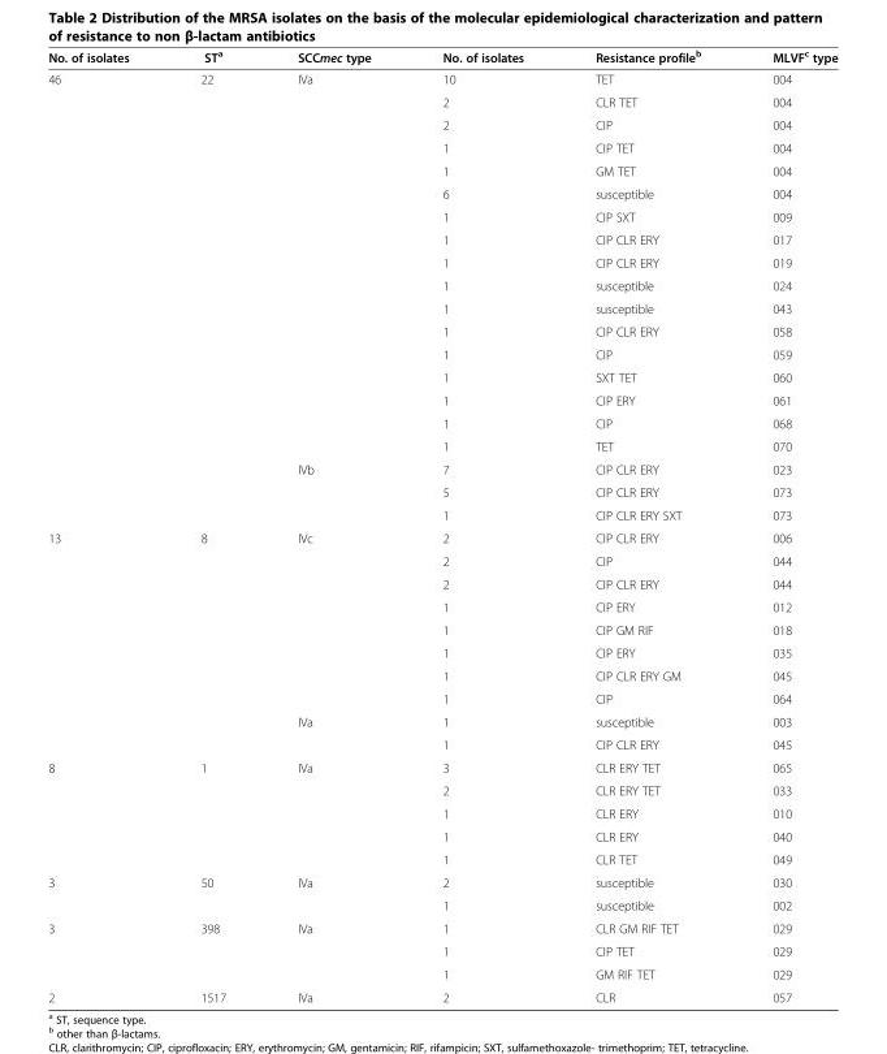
<table><thead><tr><td>No. of isolates</td><td>ST<sup>a</sup></td><td>SCCmec type</td><td>No. of isolates</td><td>Resistance profile<sup>b</sup></td><td>MLVF<sup>c</sup> type</td></tr></thead><tbody><tr><td rowspan="20">46</td><td rowspan="20">22</td><td rowspan="17">IVa</td><td>10</td><td>TET</td><td>004</td></tr><tr><td>2</td><td>CLR TET</td><td>004</td></tr><tr><td>2</td><td>CIP</td><td>004</td></tr><tr><td>1</td><td>CIP TET</td><td>004</td></tr><tr><td>1</td><td>GM TET</td><td>004</td></tr><tr><td>6</td><td>susceptible</td><td>004</td></tr><tr><td>1</td><td>CIP SXT</td><td>009</td></tr><tr><td>1</td><td>CIP CLR ERY</td><td>017</td></tr><tr><td>1</td><td>CIP CLR ERY</td><td>019</td></tr><tr><td>1</td><td>susceptible</td><td>024</td></tr><tr><td>1</td><td>susceptible</td><td>043</td></tr><tr><td>1</td><td>CIP CLR ERY</td><td>058</td></tr><tr><td>1</td><td>CIP</td><td>059</td></tr><tr><td>1</td><td>SXT TET</td><td>060</td></tr><tr><td>1</td><td>CIP ERY</td><td>061</td></tr><tr><td>1</td><td>CIP</td><td>068</td></tr><tr><td>1</td><td>TET</td><td>070</td></tr><tr><td rowspan="3">IVb</td><td>7</td><td>CIP CLR ERY</td><td>023</td></tr><tr><td>5</td><td>CIP CLR ERY</td><td>073</td></tr><tr><td>1</td><td>CIP CLR ERY SXT</td><td>073</td></tr><tr><td rowspan="10">13</td><td rowspan="10">8</td><td rowspan="8">IVc</td><td>2</td><td>CIP CLR ERY</td><td>006</td></tr><tr><td>2</td><td>CIP</td><td>044</td></tr><tr><td>2</td><td>CIP CLR ERY</td><td>044</td></tr><tr><td>1</td><td>CIP ERY</td><td>012</td></tr><tr><td>1</td><td>CIP GM RIF</td><td>018</td></tr><tr><td>1</td><td>CIP ERY</td><td>035</td></tr><tr><td>1</td><td>CIP CLR ERY GM</td><td>045</td></tr><tr><td>1</td><td>CIP</td><td>064</td></tr><tr><td rowspan="2">IVa</td><td>1</td><td>susceptible</td><td>003</td></tr><tr><td>1</td><td>CIP CLR ERY</td><td>045</td></tr><tr><td rowspan="5">8</td><td rowspan="5">1</td><td rowspan="5">IVa</td><td>3</td><td>CLR ERY TET</td><td>065</td></tr><tr><td>2</td><td>CLR ERY TET</td><td>033</td></tr><tr><td>1</td><td>CLR ERY</td><td>010</td></tr><tr><td>1</td><td>CLR ERY</td><td>040</td></tr><tr><td>1</td><td>CLR TET</td><td>049</td></tr><tr><td rowspan="2">3</td><td rowspan="2">50</td><td rowspan="2">IVa</td><td>2</td><td>susceptible</td><td>030</td></tr><tr><td>1</td><td>susceptible</td><td>002</td></tr><tr><td rowspan="3">3</td><td rowspan="3">398</td><td rowspan="3">IVa</td><td>1</td><td>CLR GM RIF TET</td><td>029</td></tr><tr><td>1</td><td>CIP TET</td><td>029</td></tr><tr><td>1</td><td>GM RIF TET</td><td>029</td></tr><tr><td>2</td><td>1517</td><td>IVa</td><td>2</td><td>CLR</td><td>057</td></tr></tbody></table>